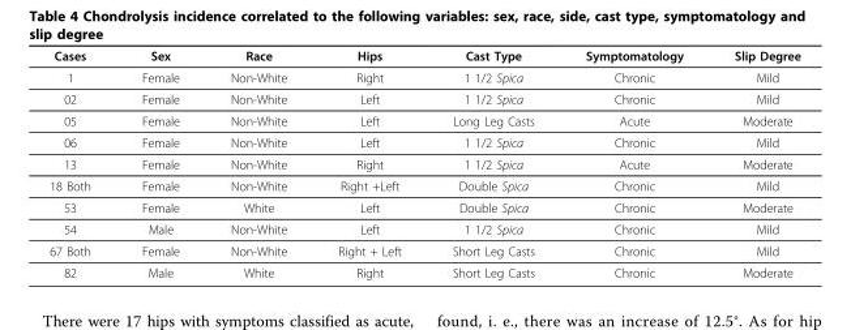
<table><thead><tr><td>Cases</td><td>Sex</td><td>Race</td><td>Hips</td><td>Cast Type</td><td>Symptomatology</td><td>Slip Degree</td></tr></thead><tbody><tr><td>1</td><td>Female</td><td>Non-White</td><td>Right</td><td>1 1/2 Spica</td><td>Chronic</td><td>Mild</td></tr><tr><td>02</td><td>Female</td><td>Non-White</td><td>Left</td><td>1 1/2 Spica</td><td>Chronic</td><td>Mild</td></tr><tr><td>05</td><td>Female</td><td>Non-White</td><td>Left</td><td>Long Leg Casts</td><td>Acute</td><td>Moderate</td></tr><tr><td>06</td><td>Female</td><td>Non-White</td><td>Left</td><td>1 1/2 Spica</td><td>Chronic</td><td>Mild</td></tr><tr><td>13</td><td>Female</td><td>Non-White</td><td>Right</td><td>1 1/2 Spica</td><td>Acute</td><td>Moderate</td></tr><tr><td>18 Both</td><td>Female</td><td>Non-White</td><td>Right +Left</td><td>Double Spica</td><td>Chronic</td><td>Mild</td></tr><tr><td>53</td><td>Female</td><td>White</td><td>Left</td><td>Double Spica</td><td>Chronic</td><td>Moderate</td></tr><tr><td>54</td><td>Male</td><td>Non-White</td><td>Left</td><td>1 1/2 Spica</td><td>Chronic</td><td>Mild</td></tr><tr><td>67 Both</td><td>Female</td><td>Non-White</td><td>Right + Left</td><td>Short Leg Casts</td><td>Chronic</td><td>Mild</td></tr><tr><td>82</td><td>Male</td><td>White</td><td>Right</td><td>Short Leg Casts</td><td>Chronic</td><td>Moderate</td></tr></tbody></table>